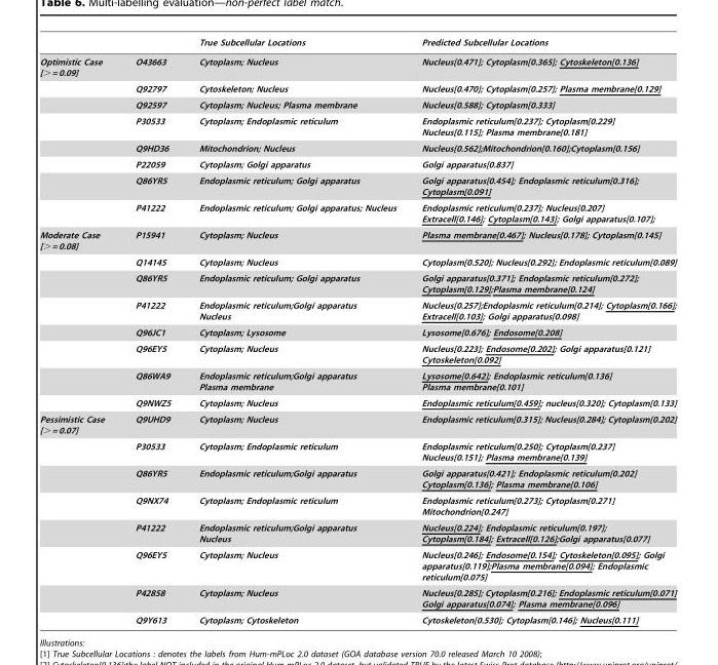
<table><thead><tr><td></td><td></td><td>True Subcellular Locations</td><td>Predicted Subcellular Locations</td></tr></thead><tbody><tr><td rowspan="8">Optimistic Case [&gt; = 0.09]</td><td>O43663</td><td>Cytoplasm; Nucleus</td><td>Nucleus[0.471]; Cytoplasm[0.365]; Cytoskeleton[0.136]</td></tr><tr><td>Q92797</td><td>Cytoskeleton; Nucleus</td><td>Nucleus[0.470]; Cytoplasm[0.257]; Plasma membrane[0.129]</td></tr><tr><td>Q92597</td><td>Cytoplasm; Nucleus; Plasma membrane</td><td>Nucleus[0.588]; Cytoplasm[0.333]</td></tr><tr><td>P30533</td><td>Cytoplasm; Endoplasmic reticulum</td><td>Endoplasmic reticulum[0.237]; Cytoplasm[0.229] Nucleus[0.115]; Plasma membrane[0.181]</td></tr><tr><td>Q9HD36</td><td>Mitochondrion; Nucleus</td><td>Nucleus[0.562];Mitochondrion[0.160];Cytoplasm[0.156]</td></tr><tr><td>P22059</td><td>Cytoplasm; Golgi apparatus</td><td>Golgi apparatus[0.837]</td></tr><tr><td>Q86YR5</td><td>Endoplasmic reticulum; Golgi apparatus</td><td>Golgi apparatus[0.454]; Endoplasmic reticulum[0.316]; Cytoplasm[0.091]</td></tr><tr><td>P41222</td><td>Endoplasmic reticulum; Golgi apparatus; Nucleus</td><td>Endoplasmic reticulum[0.237]; Nucleus[0.207] Extracell[0.146]; Cytoplasm[0.143]; Golgi apparatus[0.107];</td></tr><tr><td rowspan="8">Moderate Case [&gt; = 0.08]</td><td>P15941</td><td>Cytoplasm; Nucleus</td><td>Plasma membrane[0.467]; Nucleus[0.178]; Cytoplasm[0.145]</td></tr><tr><td>Q14145</td><td>Cytoplasm; Nucleus</td><td>Cytoplasm[0.520]; Nucleus[0.292]; Endoplasmic reticulum[0.089]</td></tr><tr><td>Q86YR5</td><td>Endoplasmic reticulum; Golgi apparatus</td><td>Golgi apparatus[0.371]; Endoplasmic reticulum[0.272]; Cytoplasm[0.129];Plasma membrane[0.124]</td></tr><tr><td>P41222</td><td>Endoplasmic reticulum;Golgi apparatus Nucleus</td><td>Nucleus[0.257];Endoplasmic reticulum[0.214]; Cytoplasm[0.166]; Extracell[0.103]; Golgi apparatus[0.098]</td></tr><tr><td>Q96JC1</td><td>Cytoplasm; Lysosome</td><td>Lysosome[0.676]; Endosome[0.208]</td></tr><tr><td>Q96EY5</td><td>Cytoplasm; Nucleus</td><td>Nucleus[0.223]; Endosome[0.202]; Golgi apparatus[0.121] Cytoskeleton[0.092]</td></tr><tr><td>Q86WA9</td><td>Endoplasmic reticulum;Golgi apparatus Plasma membrane</td><td>Lysosome[0.642]; Endoplasmic reticulum[0.136] Plasma membrane[0.101]</td></tr><tr><td>Q9NWZ5</td><td>Cytoplasm; Nucleus</td><td>Endoplasmic reticulum[0.459]; nucleus[0.320]; Cytoplasm[0.133]</td></tr><tr><td rowspan="8">Pessimistic Case [&gt; = 0.07]</td><td>Q9UHD9</td><td>Cytoplasm; Nucleus</td><td>Endoplasmic reticulum[0.315]; Nucleus[0.284]; Cytoplasm[0.202]</td></tr><tr><td>P30533</td><td>Cytoplasm; Endoplasmic reticulum</td><td>Endoplasmic reticulum[0.250]; Cytoplasm[0.237] Nucleus[0.151]; Plasma membrane[0.139]</td></tr><tr><td>Q86YR5</td><td>Endoplasmic reticulum;Golgi apparatus</td><td>Golgi apparatus[0.421]; Endoplasmic reticulum[0.202] Cytoplasm[0.136]; Plasma membrane[0.106]</td></tr><tr><td>Q9NX74</td><td>Cytoplasm; Endoplasmic reticulum</td><td>Endoplasmic reticulum[0.273]; Cytoplasm[0.271] Mitochondrion[0.247]</td></tr><tr><td>P41222</td><td>Endoplasmic reticulum;Golgi apparatus Nucleus</td><td>Nucleus[0.224]; Endoplasmic reticulum[0.197]; Cytoplasm[0.184]; Extracell[0.126];Golgi apparatus[0.077]</td></tr><tr><td>Q96EY5</td><td>Cytoplasm; Nucleus</td><td>Nucleus[0.246]; Endosome[0.154]; Cytoskeleton[0.095]; Golgi apparatus[0.119];Plasma membrane[0.094]; Endoplasmic reticulum[0.075]</td></tr><tr><td>P42858</td><td>Cytoplasm; Nucleus</td><td>Nucleus[0.285]; Cytoplasm[0.216]; Endoplasmic reticulum[0.071] Golgi apparatus[0.074]; Plasma membrane[0.096]</td></tr><tr><td>Q9Y613</td><td>Cytoplasm; Cytoskeleton</td><td>Cytoskeleton[0.530]; Cytoplasm[0.146]; Nucleus[0.111]</td></tr></tbody></table>